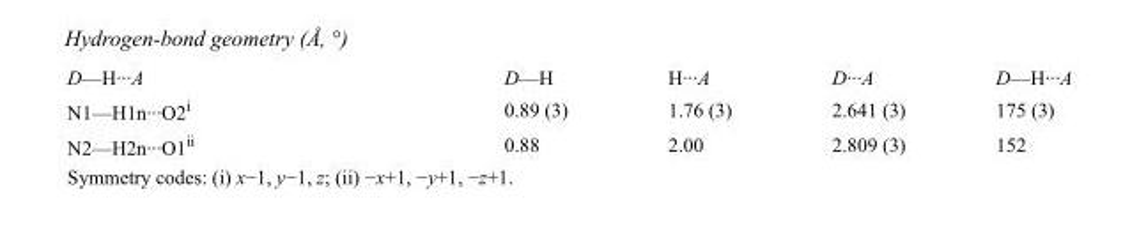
<table><tbody><tr><td>D—H···A</td><td>D—H</td><td>H···A</td><td>D···A</td><td>D—H···A</td></tr><tr><td>N1—H1n···O2<sup>i</sup></td><td>0.89 (3)</td><td>1.76 (3)</td><td>2.641 (3)</td><td>175 (3)</td></tr><tr><td>N2—H2n···O1<sup>ii</sup></td><td>0.88</td><td>2.00</td><td>2.809 (3)</td><td>152</td></tr></tbody></table>